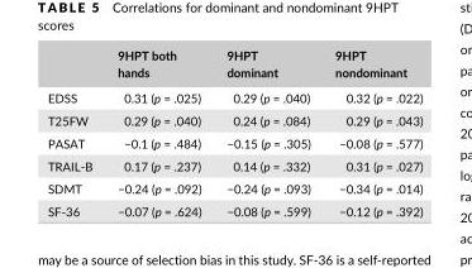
<table><thead><tr><td></td><td>9HPT both hands</td><td>9HPT dominant</td><td>9HPT nondominant</td></tr></thead><tbody><tr><td>EDSS</td><td>0.31 (p = .025)</td><td>0.29 (p = .040)</td><td>0.32 (p = .022)</td></tr><tr><td>T25FW</td><td>0.29 (p = .040)</td><td>0.24 (p = .084)</td><td>0.29 (p = .043)</td></tr><tr><td>PASAT</td><td>−0.1 (p = .484)</td><td>−0.15 (p = .305)</td><td>−0.08 (p = .577)</td></tr><tr><td>TRAIL- B</td><td>0.17 (p = .237)</td><td>0.14 (p = .332)</td><td>0.31 (p = .027)</td></tr><tr><td>SDMT</td><td>−0.24 (p = .092)</td><td>−0.24 (p = .093)</td><td>−0.34 (p = .014)</td></tr><tr><td>SF- 36</td><td>−0.07 (p = .624)</td><td>−0.08 (p = .599)</td><td>−0.12 (p = .392)</td></tr></tbody></table>